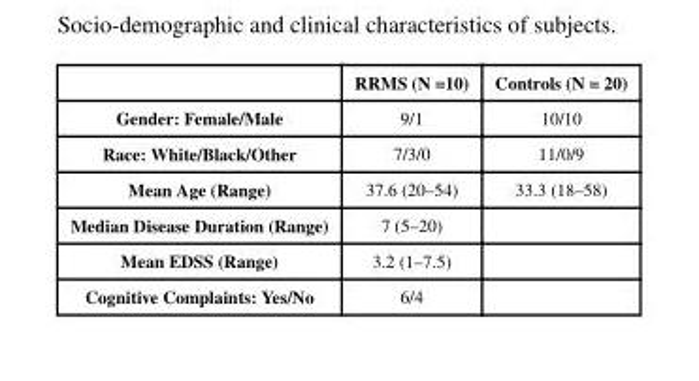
<table><thead><tr><td></td><td>RRMS (N =10)</td><td>Controls (N = 20)</td></tr></thead><tbody><tr><td>Gender: Female/Male</td><td>9/1</td><td>10/10</td></tr><tr><td>Race: White/Black/Other</td><td>7/3/0</td><td>11/0/9</td></tr><tr><td>Mean Age (Range)</td><td>37.6 (20–54)</td><td>33.3 (18–58)</td></tr><tr><td>Median Disease Duration (Range)</td><td>7 (5–20)</td><td></td></tr><tr><td>Mean EDSS (Range)</td><td>3.2 (1–7.5)</td><td></td></tr><tr><td>Cognitive Complaints: Yes/No</td><td>6/4</td><td></td></tr></tbody></table>